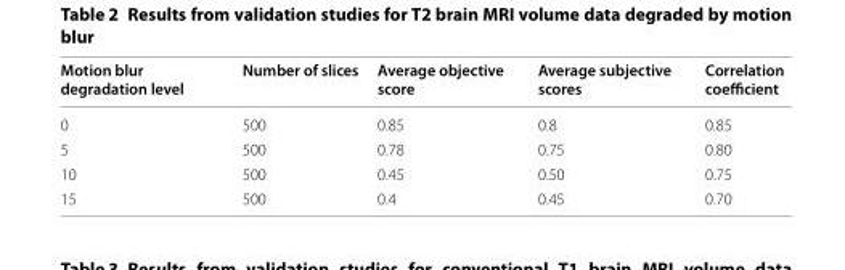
<table><thead><tr><td>Motion blur degradation level</td><td>Number of slices</td><td>Average objective score</td><td>Average subjective scores</td><td>Correlation coefficient</td></tr></thead><tbody><tr><td>0</td><td>500</td><td>0.85</td><td>0.8</td><td>0.85</td></tr><tr><td>5</td><td>500</td><td>0.78</td><td>0.75</td><td>0.80</td></tr><tr><td>10</td><td>500</td><td>0.45</td><td>0.50</td><td>0.75</td></tr><tr><td>15</td><td>500</td><td>0.4</td><td>0.45</td><td>0.70</td></tr></tbody></table>